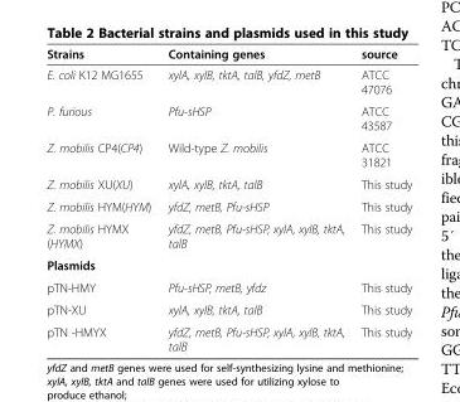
<table><thead><tr><td>Strains</td><td>Containing genes</td><td>source</td></tr></thead><tbody><tr><td>E. coli K12 MG1655</td><td>xylA, xylB, tktA, talB, yfdZ, metB</td><td>ATCC 47076</td></tr><tr><td>P. furious</td><td>Pfu-sHSP</td><td>ATCC 43587</td></tr><tr><td>Z. mobilis CP4(CP4)</td><td>Wild-type Z. mobilis</td><td>ATCC 31821</td></tr><tr><td>Z. mobilis XU(XU)</td><td>xylA, xylB, tktA, talB</td><td>This study</td></tr><tr><td>Z. mobilis HYM(HYM)</td><td>yfdZ, metB, Pfu-sHSP</td><td>This study</td></tr><tr><td>Z. mobilis HYMX (HYMX)</td><td>yfdZ, metB, Pfu-sHSP, xylA, xylB, tktA, talB</td><td>This study</td></tr><tr><td colspan="3">Plasmids</td></tr><tr><td>pTN-HMY</td><td>Pfu-sHSP, metB, yfdz</td><td>This study</td></tr><tr><td>pTN-XU</td><td>xylA, xylB, tktA, talB</td><td>This study</td></tr><tr><td>pTN -HMYX</td><td>yfdZ, metB, Pfu-sHSP, xylA, xylB, tktA, talB</td><td>This study</td></tr></tbody></table>